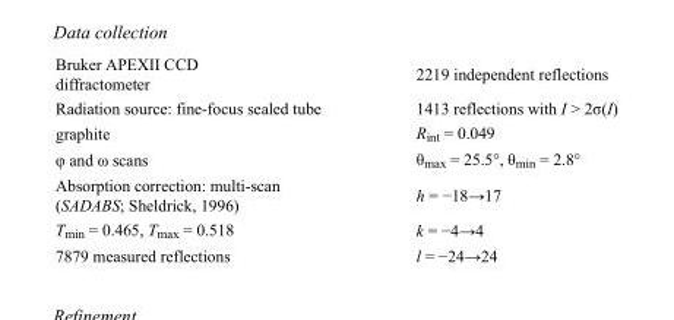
<table><tbody><tr><td>Bruker APEXII CCD diffractometer</td><td>2219 independent reflections</td></tr><tr><td>Radiation source: fine-focus sealed tube</td><td>1413 reflections with I &gt; 2σ(I)</td></tr><tr><td>graphite</td><td>R<sub>int</sub> = 0.049</td></tr><tr><td>φ and ω scans</td><td>θ<sub>max</sub> = 25.5°, θ<sub>min</sub> = 2.8°</td></tr><tr><td>Absorption correction: multi-scan (SADABS; Sheldrick, 1996)</td><td>h = −18→17</td></tr><tr><td>T<sub>min</sub> = 0.465, T<sub>max</sub> = 0.518</td><td>k = −4→4</td></tr><tr><td>7879 measured reflections</td><td>l = −24→24</td></tr></tbody></table>